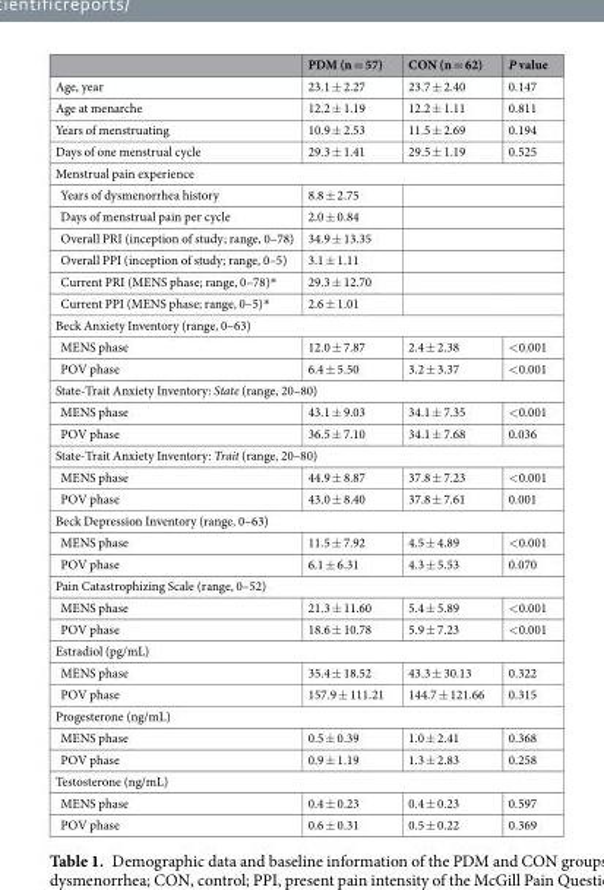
<table><thead><tr><td></td><td>PDM (n = 57)</td><td>CON (n = 62)</td><td>P value</td></tr></thead><tbody><tr><td>Age, year</td><td>23.1 ± 2.27</td><td>23.7 ± 2.40</td><td>0.147</td></tr><tr><td>Age at menarche</td><td>12.2 ± 1.19</td><td>12.2 ± 1.11</td><td>0.811</td></tr><tr><td>Years of menstruating</td><td>10.9 ± 2.53</td><td>11.5 ± 2.69</td><td>0.194</td></tr><tr><td>Days of one menstrual cycle</td><td>29.3 ± 1.41</td><td>29.5 ± 1.19</td><td>0.525</td></tr><tr><td colspan="4">Menstrual pain experience</td></tr><tr><td>Years of dysmenorrhea history</td><td>8.8 ± 2.75</td><td colspan="2"></td></tr><tr><td>Days of menstrual pain per cycle</td><td>2.0 ± 0.84</td><td colspan="2"></td></tr><tr><td>Overall PRI (inception of study; range, 0–78)</td><td>34.9 ± 13.35</td><td colspan="2"></td></tr><tr><td>Overall PPI (inception of study; range, 0–5)</td><td>3.1 ± 1.11</td><td colspan="2"></td></tr><tr><td>Current PRI (MENS phase; range, 0–78)*</td><td>29.3 ± 12.70</td><td colspan="2"></td></tr><tr><td>Current PPI (MENS phase; range, 0–5)*</td><td>2.6 ± 1.01</td><td colspan="2"></td></tr><tr><td colspan="4">Beck Anxiety Inventory (range, 0–63)</td></tr><tr><td>MENS phase</td><td>12.0 ± 7.87</td><td>2.4 ± 2.38</td><td>&lt;0.001</td></tr><tr><td>POV phase</td><td>6.4 ± 5.50</td><td>3.2 ± 3.37</td><td>&lt;0.001</td></tr><tr><td colspan="4">State-Trait Anxiety Inventory: State (range, 20–80)</td></tr><tr><td>MENS phase</td><td>43.1 ± 9.03</td><td>34.1 ± 7.35</td><td>&lt;0.001</td></tr><tr><td>POV phase</td><td>36.5 ± 7.10</td><td>34.1 ± 7.68</td><td>0.036</td></tr><tr><td colspan="4">State-Trait Anxiety Inventory: Trait (range, 20–80)</td></tr><tr><td>MENS phase</td><td>44.9 ± 8.87</td><td>37.8 ± 7.23</td><td>&lt;0.001</td></tr><tr><td>POV phase</td><td>43.0 ± 8.40</td><td>37.8 ± 7.61</td><td>0.001</td></tr><tr><td colspan="4">Beck Depression Inventory (range, 0–63)</td></tr><tr><td>MENS phase</td><td>11.5 ± 7.92</td><td>4.5 ± 4.89</td><td>&lt;0.001</td></tr><tr><td>POV phase</td><td>6.1 ± 6.31</td><td>4.3 ± 5.53</td><td>0.070</td></tr><tr><td colspan="4">Pain Catastrophizing Scale (range, 0–52)</td></tr><tr><td>MENS phase</td><td>21.3 ± 11.60</td><td>5.4 ± 5.89</td><td>&lt;0.001</td></tr><tr><td>POV phase</td><td>18.6 ± 10.78</td><td>5.9 ± 7.23</td><td>&lt;0.001</td></tr><tr><td colspan="4">Estradiol (pg/mL)</td></tr><tr><td>MENS phase</td><td>35.4 ± 18.52</td><td>43.3 ± 30.13</td><td>0.322</td></tr><tr><td>POV phase</td><td>157.9 ± 111.21</td><td>144.7 ± 121.66</td><td>0.315</td></tr><tr><td colspan="4">Progesterone (ng/mL)</td></tr><tr><td>MENS phase</td><td>0.5 ± 0.39</td><td>1.0 ± 2.41</td><td>0.368</td></tr><tr><td>POV phase</td><td>0.9 ± 1.19</td><td>1.3 ± 2.83</td><td>0.258</td></tr><tr><td colspan="4">Testosterone (ng/mL)</td></tr><tr><td>MENS phase</td><td>0.4 ± 0.23</td><td>0.4 ± 0.23</td><td>0.597</td></tr><tr><td>POV phase</td><td>0.6 ± 0.31</td><td>0.5 ± 0.22</td><td>0.369</td></tr></tbody></table>